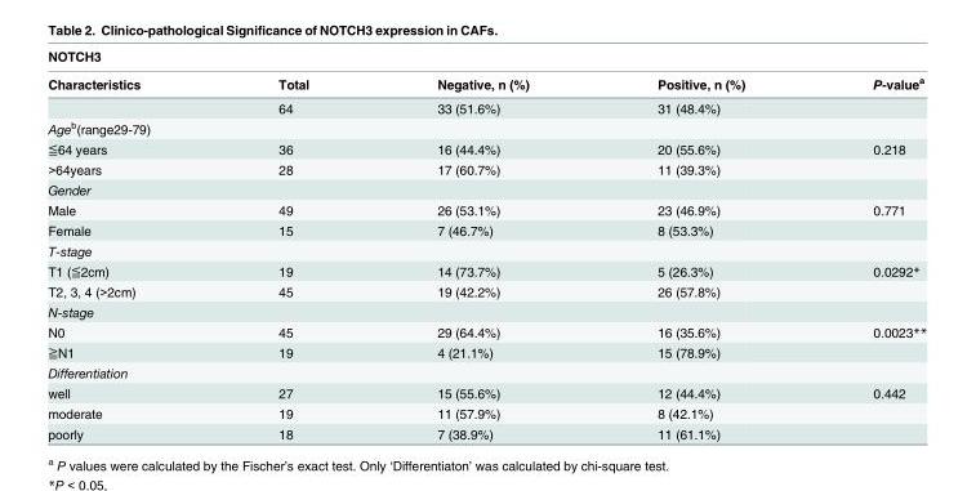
<table><thead><tr><td colspan="5">NOTCH3</td></tr><tr><td>Characteristics</td><td>Total</td><td>Negative, n (%)</td><td>Positive, n (%)</td><td>P-value<sup>a</sup></td></tr></thead><tbody><tr><td></td><td>64</td><td>33 (51.6%)</td><td>31 (48.4%)</td><td></td></tr><tr><td colspan="5">Age<sup>b</sup>(range29-79)</td></tr><tr><td>≦64 years</td><td>36</td><td>16 (44.4%)</td><td>20 (55.6%)</td><td>0.218</td></tr><tr><td>&gt;64years</td><td>28</td><td>17 (60.7%)</td><td>11 (39.3%)</td><td></td></tr><tr><td colspan="5">Gender</td></tr><tr><td>Male</td><td>49</td><td>26 (53.1%)</td><td>23 (46.9%)</td><td>0.771</td></tr><tr><td>Female</td><td>15</td><td>7 (46.7%)</td><td>8 (53.3%)</td><td></td></tr><tr><td colspan="5">T-stage</td></tr><tr><td>T1 (≦2cm)</td><td>19</td><td>14 (73.7%)</td><td>5 (26.3%)</td><td>0.0292*</td></tr><tr><td>T2, 3, 4 (&gt;2cm)</td><td>45</td><td>19 (42.2%)</td><td>26 (57.8%)</td><td></td></tr><tr><td colspan="5">N-stage</td></tr><tr><td>N0</td><td>45</td><td>29 (64.4%)</td><td>16 (35.6%)</td><td>0.0023**</td></tr><tr><td>≧N1</td><td>19</td><td>4 (21.1%)</td><td>15 (78.9%)</td><td></td></tr><tr><td colspan="5">Differentiation</td></tr><tr><td>well</td><td>27</td><td>15 (55.6%)</td><td>12 (44.4%)</td><td>0.442</td></tr><tr><td>moderate</td><td>19</td><td>11 (57.9%)</td><td>8 (42.1%)</td><td></td></tr><tr><td>poorly</td><td>18</td><td>7 (38.9%)</td><td>11 (61.1%)</td><td></td></tr></tbody></table>